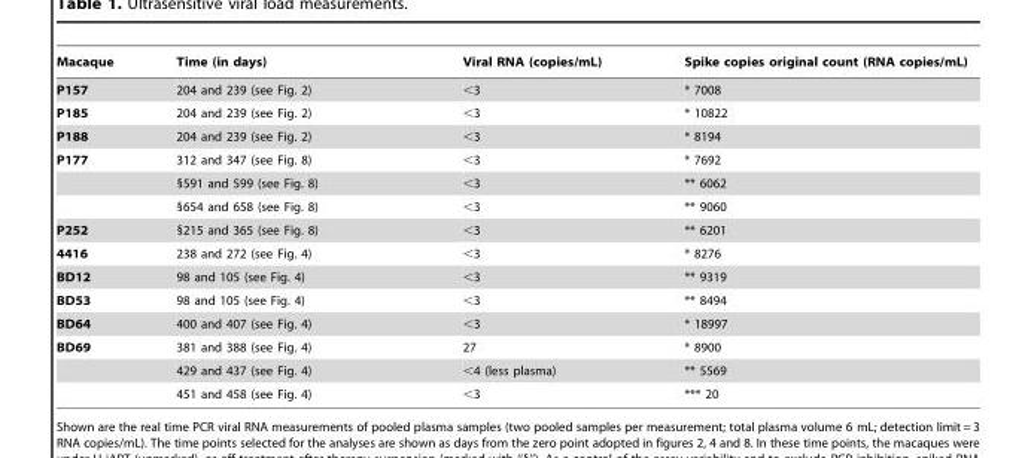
<table><thead><tr><td>Macaque</td><td>Time (in days)</td><td>Viral RNA (copies/mL)</td><td>Spike copies original count (RNA copies/mL)</td></tr></thead><tbody><tr><td>P157</td><td>204 and 239 (see Fig. 2)</td><td>&lt;3</td><td>* 7008</td></tr><tr><td>P185</td><td>204 and 239 (see Fig. 2)</td><td>&lt;3</td><td>* 10822</td></tr><tr><td>P188</td><td>204 and 239 (see Fig. 2)</td><td>&lt;3</td><td>* 8194</td></tr><tr><td rowspan="3">P177</td><td>312 and 347 (see Fig. 8)</td><td>&lt;3</td><td>* 7692</td></tr><tr><td>§591 and 599 (see Fig. 8)</td><td>&lt;3</td><td>** 6062</td></tr><tr><td>§654 and 658 (see Fig. 8)</td><td>&lt;3</td><td>** 9060</td></tr><tr><td>P252</td><td>§215 and 365 (see Fig. 8)</td><td>&lt;3</td><td>** 6201</td></tr><tr><td>4416</td><td>238 and 272 (see Fig. 4)</td><td>&lt;3</td><td>* 8276</td></tr><tr><td>BD12</td><td>98 and 105 (see Fig. 4)</td><td>&lt;3</td><td>** 9319</td></tr><tr><td>BD53</td><td>98 and 105 (see Fig. 4)</td><td>&lt;3</td><td>** 8494</td></tr><tr><td>BD64</td><td>400 and 407 (see Fig. 4)</td><td>&lt;3</td><td>* 18997</td></tr><tr><td rowspan="3">BD69</td><td>381 and 388 (see Fig. 4)</td><td>27</td><td>* 8900</td></tr><tr><td>429 and 437 (see Fig. 4)</td><td>&lt;4 (less plasma)</td><td>** 5569</td></tr><tr><td>451 and 458 (see Fig. 4)</td><td>&lt;3</td><td>*** 20</td></tr></tbody></table>